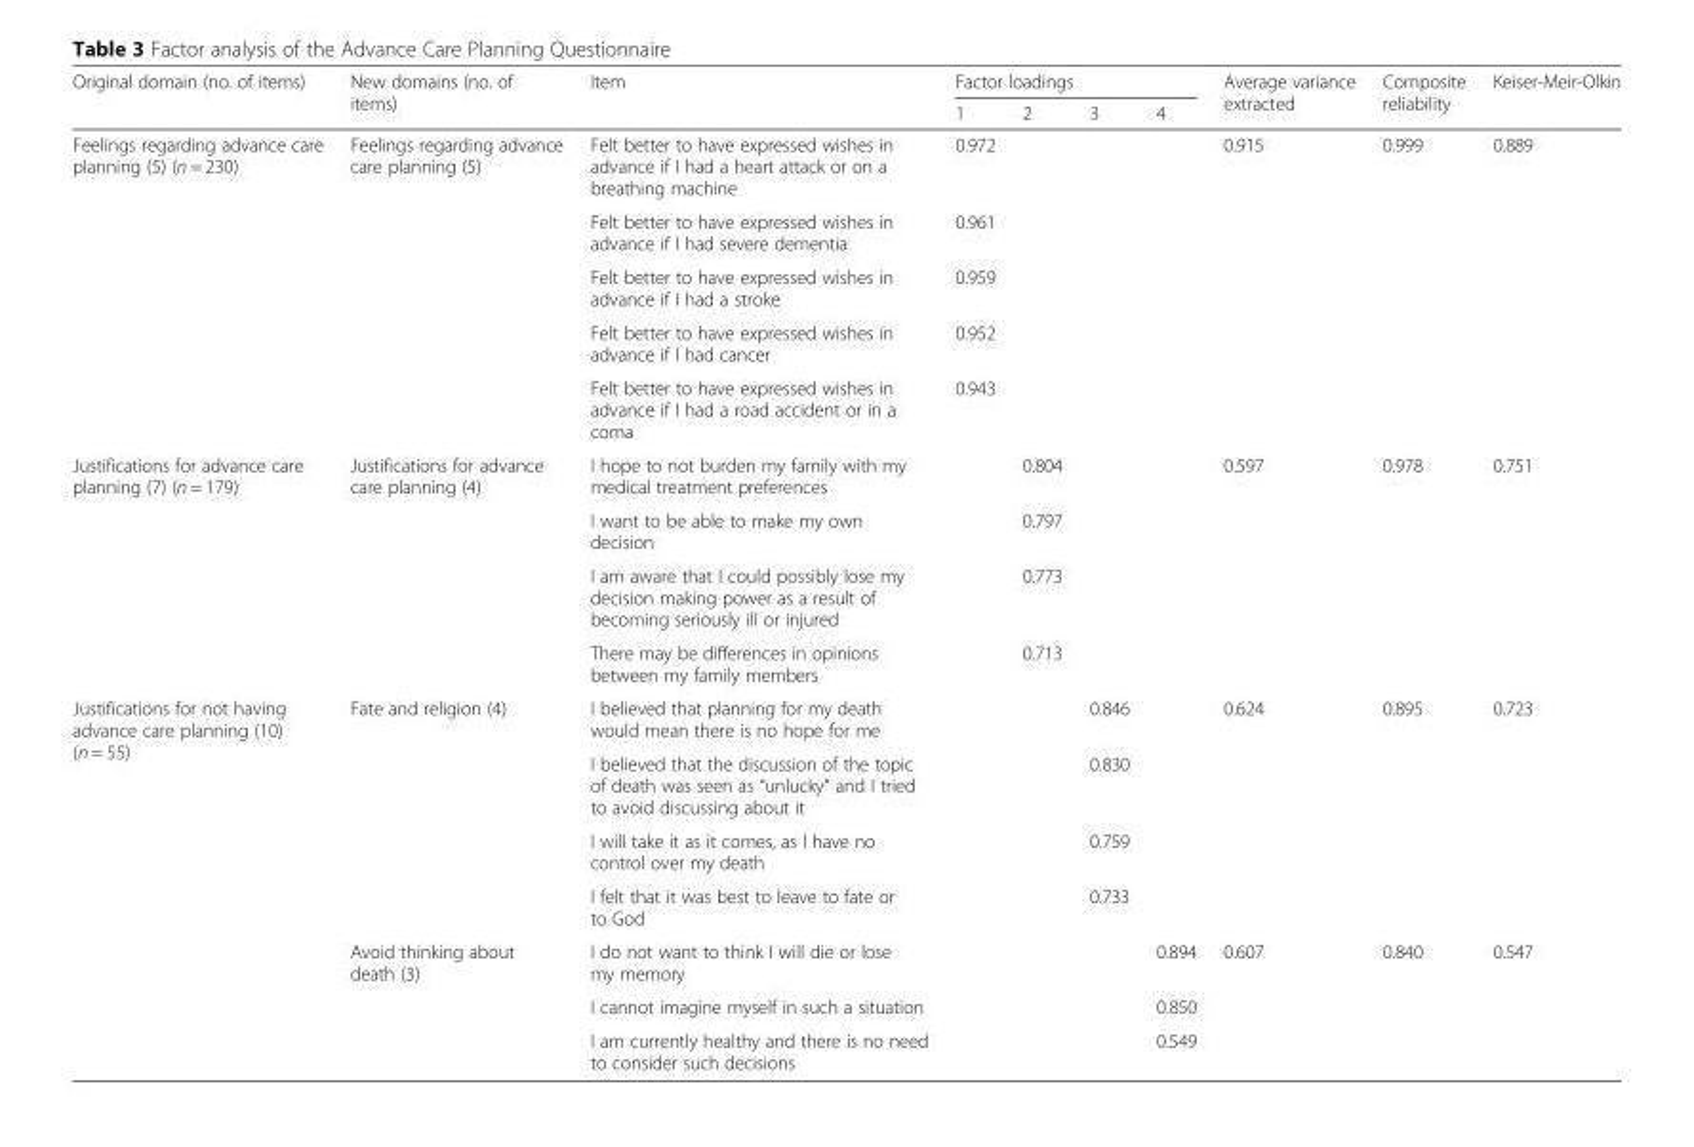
<table><thead><tr><td rowspan="2">Original domain (no. of items)</td><td rowspan="2">New domains (no. of items)</td><td rowspan="2">Item</td><td colspan="4">Factor loadings</td><td rowspan="2">Average variance extracted</td><td rowspan="2">Composite reliability</td><td rowspan="2">Keiser-Meir-Olkin</td></tr><tr><td>1</td><td>2</td><td>3</td><td>4</td></tr></thead><tbody><tr><td rowspan="5">Feelings regarding advance care planning (5) (n = 230)</td><td rowspan="5">Feelings regarding advance care planning (5)</td><td>Felt better to have expressed wishes in advance if I had a heart attack or on a breathing machine</td><td>0.972</td><td></td><td></td><td></td><td rowspan="5">0.915</td><td rowspan="5">0.999</td><td rowspan="5">0.889</td></tr><tr><td>Felt better to have expressed wishes in advance if I had severe dementia</td><td>0.961</td><td></td><td></td><td></td></tr><tr><td>Felt better to have expressed wishes in advance if I had a stroke</td><td>0.959</td><td></td><td></td><td></td></tr><tr><td>Felt better to have expressed wishes in advance if I had cancer</td><td>0.952</td><td></td><td></td><td></td></tr><tr><td>Felt better to have expressed wishes in advance if I had a road accident or in a coma</td><td>0.943</td><td></td><td></td><td></td></tr><tr><td rowspan="4">Justifications for advance care planning (7) (n = 179)</td><td rowspan="4">Justifications for advance care planning (4)</td><td>I hope to not burden my family with my medical treatment preferences</td><td></td><td>0.804</td><td></td><td></td><td rowspan="4">0.597</td><td rowspan="4">0.978</td><td rowspan="4">0.751</td></tr><tr><td>I want to be able to make my own decision</td><td></td><td>0.797</td><td></td><td></td></tr><tr><td>I am aware that I could possibly lose my decision making power as a result of becoming seriously ill or injured</td><td></td><td>0.773</td><td></td><td></td></tr><tr><td>There may be differences in opinions between my family members</td><td></td><td>0.713</td><td></td><td></td></tr><tr><td rowspan="7">Justifications for not having advance care planning (10) (n = 55)</td><td rowspan="4">Fate and religion (4)</td><td>I believed that planning for my death would mean there is no hope for me</td><td></td><td></td><td>0.846</td><td></td><td rowspan="4">0.624</td><td rowspan="4">0.895</td><td rowspan="4">0.723</td></tr><tr><td>I believed that the discussion of the topic of death was seen as “unlucky” and I tried to avoid discussing about it</td><td></td><td></td><td>0.830</td><td></td></tr><tr><td>I will take it as it comes, as I have no control over my death</td><td></td><td></td><td>0.759</td><td></td></tr><tr><td>I felt that it was best to leave to fate or to God</td><td></td><td></td><td>0.733</td><td></td></tr><tr><td rowspan="3">Avoid thinking about death (3)</td><td>I do not want to think I will die or lose my memory</td><td></td><td></td><td></td><td>0.894</td><td rowspan="3">0.607</td><td rowspan="3">0.840</td><td rowspan="3">0.547</td></tr><tr><td>I cannot imagine myself in such a situation</td><td></td><td></td><td></td><td>0.850</td></tr><tr><td>I am currently healthy and there is no need to consider such decisions</td><td></td><td></td><td></td><td>0.549</td></tr></tbody></table>